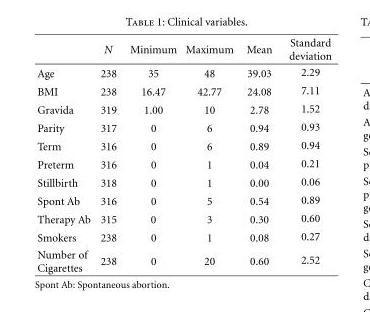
<table><thead><tr><td></td><td>N</td><td>Minimum</td><td>Maximum</td><td>Mean</td><td>Standard deviation</td></tr></thead><tbody><tr><td>Age</td><td>238</td><td>35</td><td>48</td><td>39.03</td><td>2.29</td></tr><tr><td>BMI</td><td>238</td><td>16.47</td><td>42.77</td><td>24.08</td><td>7.11</td></tr><tr><td>Gravida</td><td>319</td><td>1.00</td><td>10</td><td>2.78</td><td>1.52</td></tr><tr><td>Parity</td><td>317</td><td>0</td><td>6</td><td>0.94</td><td>0.93</td></tr><tr><td>Term</td><td>316</td><td>0</td><td>6</td><td>0.89</td><td>0.94</td></tr><tr><td>Preterm</td><td>316</td><td>0</td><td>1</td><td>0.04</td><td>0.21</td></tr><tr><td>Stillbirth</td><td>318</td><td>0</td><td>1</td><td>0.00</td><td>0.06</td></tr><tr><td>Spont Ab</td><td>316</td><td>0</td><td>5</td><td>0.54</td><td>0.89</td></tr><tr><td>Therapy Ab</td><td>315</td><td>0</td><td>3</td><td>0.30</td><td>0.60</td></tr><tr><td>Smokers</td><td>238</td><td>0</td><td>1</td><td>0.08</td><td>0.27</td></tr><tr><td>Number of Cigarettes</td><td>238</td><td>0</td><td>20</td><td>0.60</td><td>2.52</td></tr></tbody></table>